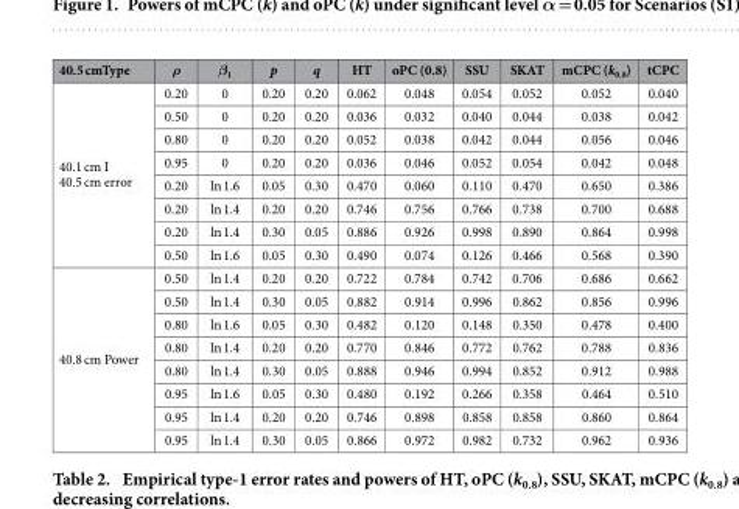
<table><thead><tr><td>40.5 cmType</td><td>ρ</td><td>β<sub>1</sub></td><td>p</td><td>q</td><td>HT</td><td>oPC (0.8)</td><td>SSU</td><td>SKAT</td><td>mCPC (k<sub>0.8</sub>)</td><td>tCPC</td></tr></thead><tbody><tr><td rowspan="8">40.1 cm I 40.5 cm error</td><td>0.20</td><td>0</td><td>0.20</td><td>0.20</td><td>0.062</td><td>0.048</td><td>0.054</td><td>0.052</td><td>0.052</td><td>0.040</td></tr><tr><td>0.50</td><td>0</td><td>0.20</td><td>0.20</td><td>0.036</td><td>0.032</td><td>0.040</td><td>0.044</td><td>0.038</td><td>0.042</td></tr><tr><td>0.80</td><td>0</td><td>0.20</td><td>0.20</td><td>0.052</td><td>0.038</td><td>0.042</td><td>0.044</td><td>0.056</td><td>0.046</td></tr><tr><td>0.95</td><td>0</td><td>0.20</td><td>0.20</td><td>0.036</td><td>0.046</td><td>0.052</td><td>0.054</td><td>0.042</td><td>0.048</td></tr><tr><td>0.20</td><td>ln 1.6</td><td>0.05</td><td>0.30</td><td>0.470</td><td>0.060</td><td>0.110</td><td>0.470</td><td>0.650</td><td>0.386</td></tr><tr><td>0.20</td><td>ln 1.4</td><td>0.20</td><td>0.20</td><td>0.746</td><td>0.756</td><td>0.766</td><td>0.738</td><td>0.700</td><td>0.688</td></tr><tr><td>0.20</td><td>ln 1.4</td><td>0.30</td><td>0.05</td><td>0.886</td><td>0.926</td><td>0.998</td><td>0.890</td><td>0.864</td><td>0.998</td></tr><tr><td>0.50</td><td>ln 1.6</td><td>0.05</td><td>0.30</td><td>0.490</td><td>0.074</td><td>0.126</td><td>0.466</td><td>0.568</td><td>0.390</td></tr><tr><td rowspan="8">40.8 cm Power</td><td>0.50</td><td>ln 1.4</td><td>0.20</td><td>0.20</td><td>0.722</td><td>0.784</td><td>0.742</td><td>0.706</td><td>0.686</td><td>0.662</td></tr><tr><td>0.50</td><td>ln 1.4</td><td>0.30</td><td>0.05</td><td>0.882</td><td>0.914</td><td>0.996</td><td>0.862</td><td>0.856</td><td>0.996</td></tr><tr><td>0.80</td><td>ln 1.6</td><td>0.05</td><td>0.30</td><td>0.482</td><td>0.120</td><td>0.148</td><td>0.350</td><td>0.478</td><td>0.400</td></tr><tr><td>0.80</td><td>ln 1.4</td><td>0.20</td><td>0.20</td><td>0.770</td><td>0.846</td><td>0.772</td><td>0.762</td><td>0.788</td><td>0.836</td></tr><tr><td>0.80</td><td>ln 1.4</td><td>0.30</td><td>0.05</td><td>0.888</td><td>0.946</td><td>0.994</td><td>0.852</td><td>0.912</td><td>0.988</td></tr><tr><td>0.95</td><td>ln 1.6</td><td>0.05</td><td>0.30</td><td>0.480</td><td>0.192</td><td>0.266</td><td>0.358</td><td>0.464</td><td>0.510</td></tr><tr><td>0.95</td><td>ln 1.4</td><td>0.20</td><td>0.20</td><td>0.746</td><td>0.898</td><td>0.858</td><td>0.858</td><td>0.860</td><td>0.864</td></tr><tr><td>0.95</td><td>ln 1.4</td><td>0.30</td><td>0.05</td><td>0.866</td><td>0.972</td><td>0.982</td><td>0.732</td><td>0.962</td><td>0.936</td></tr></tbody></table>